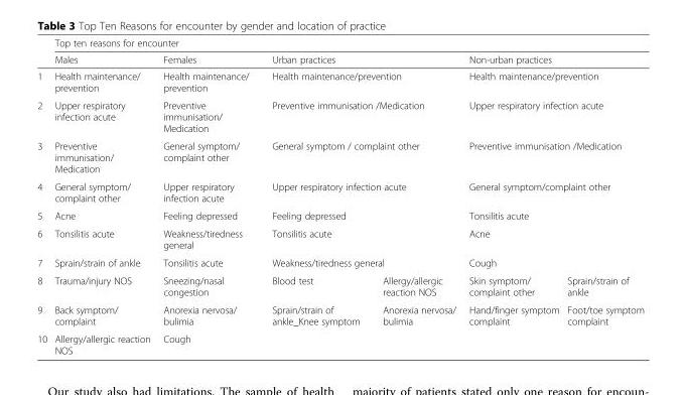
<table><thead><tr><td rowspan="2"></td><td colspan="6">Top ten reasons for encounter</td></tr><tr><td>Males</td><td>Females</td><td colspan="2">Urban practices</td><td colspan="2">Non-urban practices</td></tr></thead><tbody><tr><td>1</td><td>Health maintenance/ prevention</td><td>Health maintenance/ prevention</td><td colspan="2">Health maintenance/prevention</td><td colspan="2">Health maintenance/prevention</td></tr><tr><td>2</td><td>Upper respiratory infection acute</td><td>Preventive immunisation/ Medication</td><td colspan="2">Preventive immunisation /Medication</td><td colspan="2">Upper respiratory infection acute</td></tr><tr><td>3</td><td>Preventive immunisation/ Medication</td><td>General symptom/ complaint other</td><td colspan="2">General symptom / complaint other</td><td colspan="2">Preventive immunisation /Medication</td></tr><tr><td>4</td><td>General symptom/ complaint other</td><td>Upper respiratory infection acute</td><td colspan="2">Upper respiratory infection acute</td><td colspan="2">General symptom/complaint other</td></tr><tr><td>5</td><td>Acne</td><td>Feeling depressed</td><td colspan="2">Feeling depressed</td><td colspan="2">Tonsilitis acute</td></tr><tr><td>6</td><td>Tonsilitis acute</td><td>Weakness/tiredness general</td><td colspan="2">Tonsilitis acute</td><td colspan="2">Acne</td></tr><tr><td>7</td><td>Sprain/strain of ankle</td><td>Tonsilitis acute</td><td colspan="2">Weakness/tiredness general</td><td colspan="2">Cough</td></tr><tr><td>8</td><td>Trauma/injury NOS</td><td>Sneezing/nasal congestion</td><td>Blood test</td><td>Allergy/allergic reaction NOS</td><td>Skin symptom/ complaint other</td><td>Sprain/strain of ankle</td></tr><tr><td>9</td><td>Back symptom/ complaint</td><td>Anorexia nervosa/ bulimia</td><td>Sprain/strain of ankle_Knee symptom</td><td>Anorexia nervosa/ bulimia</td><td>Hand/finger symptom complaint</td><td>Foot/toe symptom complaint</td></tr><tr><td>10</td><td>Allergy/allergic reaction NOS</td><td>Cough</td><td></td><td></td><td></td><td></td></tr></tbody></table>